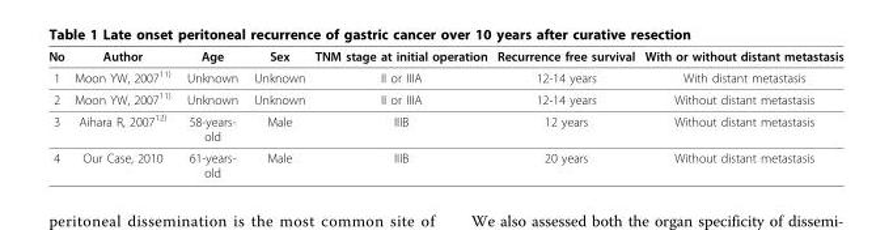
<table><thead><tr><td>No</td><td>Author</td><td>Age</td><td>Sex</td><td>TNM stage at initial operation</td><td>Recurrence free survival</td><td>With or without distant metastasis</td></tr></thead><tbody><tr><td>1</td><td>Moon YW, 2007<sup>11)</sup></td><td>Unknown</td><td>Unknown</td><td>II or IIIA</td><td>12-14 years</td><td>With distant metastasis</td></tr><tr><td>2</td><td>Moon YW, 2007<sup>11)</sup></td><td>Unknown</td><td>Unknown</td><td>II or IIIA</td><td>12-14 years</td><td>Without distant metastasis</td></tr><tr><td>3</td><td>Aihara R, 2007<sup>12)</sup></td><td>58-years- old</td><td>Male</td><td>IIIB</td><td>12 years</td><td>Without distant metastasis</td></tr><tr><td>4</td><td>Our Case, 2010</td><td>61-years- old</td><td>Male</td><td>IIIB</td><td>20 years</td><td>Without distant metastasis</td></tr></tbody></table>